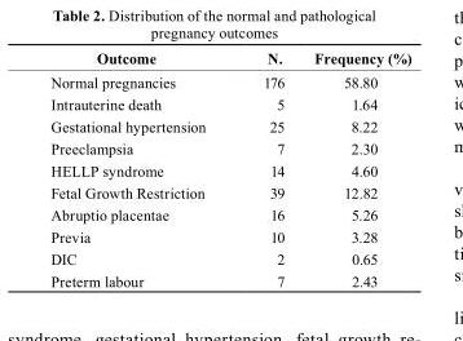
<table><thead><tr><td>Outcome</td><td>N.</td><td>Frequency (%)</td></tr></thead><tbody><tr><td>Normal pregnancies</td><td>176</td><td>58.80</td></tr><tr><td>Intrauterine death</td><td>5</td><td>1.64</td></tr><tr><td>Gestational hypertension</td><td>25</td><td>8.22</td></tr><tr><td>Preeclampsia</td><td>7</td><td>2.30</td></tr><tr><td>HELLP syndrome</td><td>14</td><td>4.60</td></tr><tr><td>Fetal Growth Restriction</td><td>39</td><td>12.82</td></tr><tr><td>Abruptio placentae</td><td>16</td><td>5.26</td></tr><tr><td>Previa</td><td>10</td><td>3.28</td></tr><tr><td>DIC</td><td>2</td><td>0.65</td></tr><tr><td>Preterm labour</td><td>7</td><td>2.43</td></tr></tbody></table>